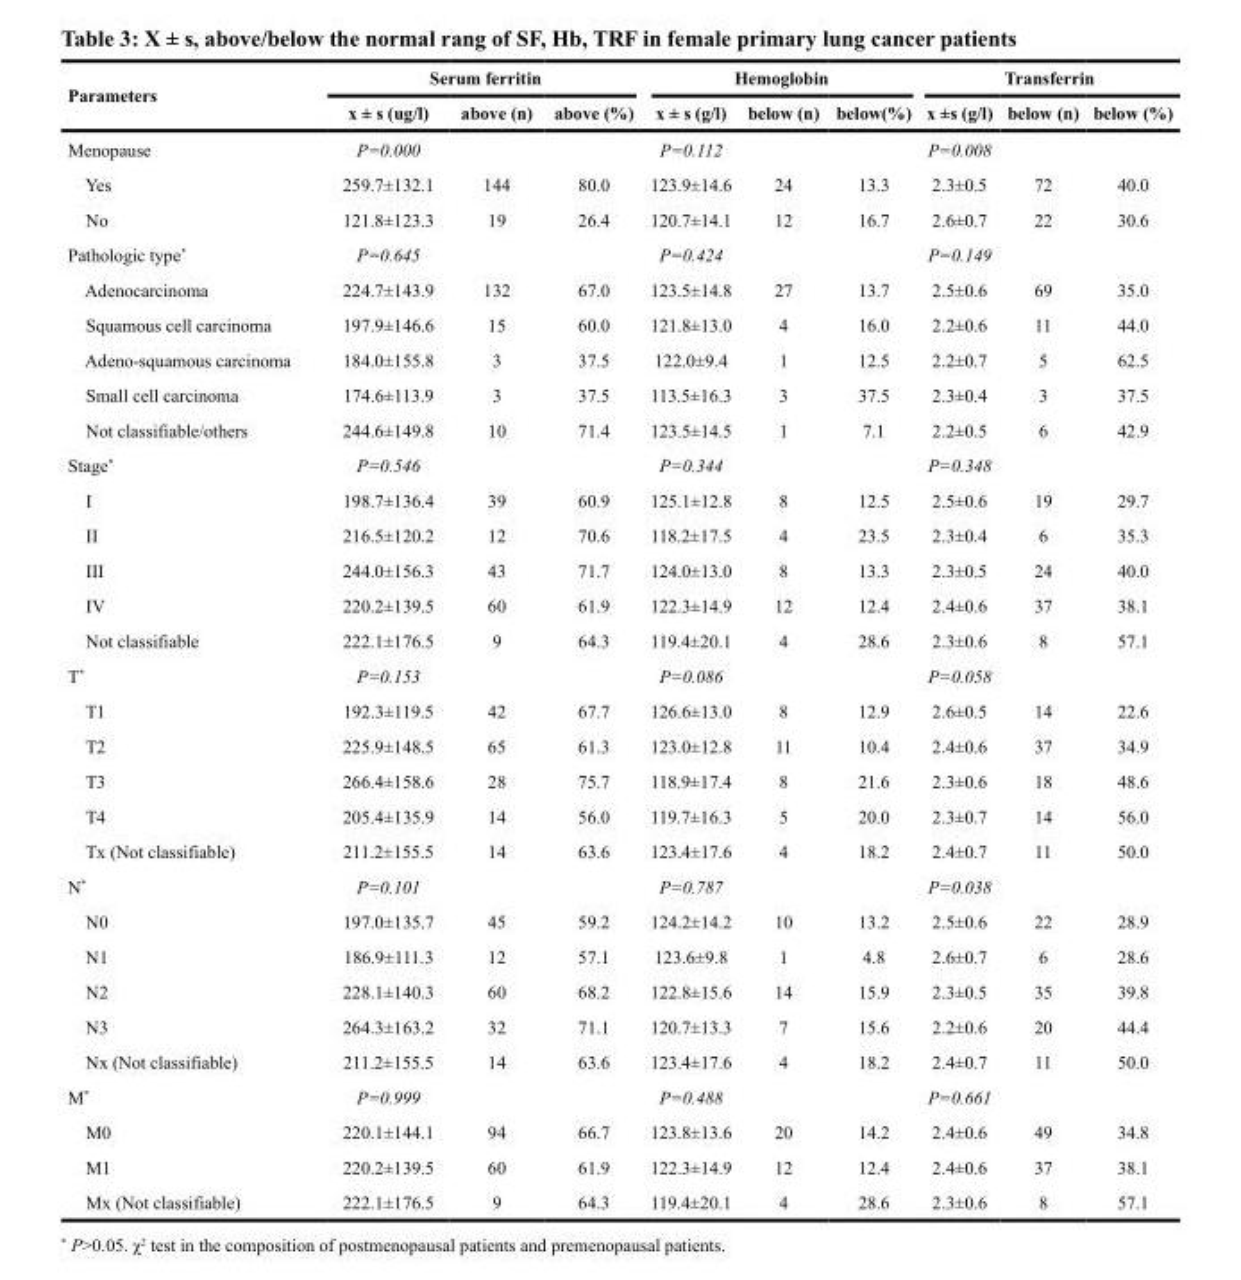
<table><thead><tr><td rowspan="2">Parameters</td><td colspan="3">Serum ferritin</td><td colspan="3">Hemoglobin</td><td colspan="3">Transferrin</td></tr><tr><td>x ± s (ug/l)</td><td>above (n)</td><td>above (%)</td><td>x ± s (g/l)</td><td>below (n)</td><td>below(%)</td><td>x ±s (g/l)</td><td>below (n)</td><td>below (%)</td></tr></thead><tbody><tr><td>Menopause</td><td>P=0.000</td><td></td><td></td><td>P=0.112</td><td></td><td></td><td>P=0.008</td><td></td><td></td></tr><tr><td>Yes</td><td>259.7±132.1</td><td>144</td><td>80.0</td><td>123.9±14.6</td><td>24</td><td>13.3</td><td>2.3±0.5</td><td>72</td><td>40.0</td></tr><tr><td>No</td><td>121.8±123.3</td><td>19</td><td>26.4</td><td>120.7±14.1</td><td>12</td><td>16.7</td><td>2.6±0.7</td><td>22</td><td>30.6</td></tr><tr><td>Pathologic type*</td><td>P=0.645</td><td></td><td></td><td>P=0.424</td><td></td><td></td><td>P=0.149</td><td></td><td></td></tr><tr><td>Adenocarcinoma</td><td>224.7±143.9</td><td>132</td><td>67.0</td><td>123.5±14.8</td><td>27</td><td>13.7</td><td>2.5±0.6</td><td>69</td><td>35.0</td></tr><tr><td>Squamous cell carcinoma</td><td>197.9±146.6</td><td>15</td><td>60.0</td><td>121.8±13.0</td><td>4</td><td>16.0</td><td>2.2±0.6</td><td>11</td><td>44.0</td></tr><tr><td>Adeno-squamous carcinoma</td><td>184.0±155.8</td><td>3</td><td>37.5</td><td>122.0±9.4</td><td>1</td><td>12.5</td><td>2.2±0.7</td><td>5</td><td>62.5</td></tr><tr><td>Small cell carcinoma</td><td>174.6±113.9</td><td>3</td><td>37.5</td><td>113.5±16.3</td><td>3</td><td>37.5</td><td>2.3±0.4</td><td>3</td><td>37.5</td></tr><tr><td>Not classifiable/others</td><td>244.6±149.8</td><td>10</td><td>71.4</td><td>123.5±14.5</td><td>1</td><td>7.1</td><td>2.2±0.5</td><td>6</td><td>42.9</td></tr><tr><td>Stage*</td><td>P=0.546</td><td></td><td></td><td>P=0.344</td><td></td><td></td><td>P=0.348</td><td></td><td></td></tr><tr><td>I</td><td>198.7±136.4</td><td>39</td><td>60.9</td><td>125.1±12.8</td><td>8</td><td>12.5</td><td>2.5±0.6</td><td>19</td><td>29.7</td></tr><tr><td>II</td><td>216.5±120.2</td><td>12</td><td>70.6</td><td>118.2±17.5</td><td>4</td><td>23.5</td><td>2.3±0.4</td><td>6</td><td>35.3</td></tr><tr><td>III</td><td>244.0±156.3</td><td>43</td><td>71.7</td><td>124.0±13.0</td><td>8</td><td>13.3</td><td>2.3±0.5</td><td>24</td><td>40.0</td></tr><tr><td>IV</td><td>220.2±139.5</td><td>60</td><td>61.9</td><td>122.3±14.9</td><td>12</td><td>12.4</td><td>2.4±0.6</td><td>37</td><td>38.1</td></tr><tr><td>Not classifiable</td><td>222.1±176.5</td><td>9</td><td>64.3</td><td>119.4±20.1</td><td>4</td><td>28.6</td><td>2.3±0.6</td><td>8</td><td>57.1</td></tr><tr><td>T*</td><td>P=0.153</td><td></td><td></td><td>P=0.086</td><td></td><td></td><td>P=0.058</td><td></td><td></td></tr><tr><td>T1</td><td>192.3±119.5</td><td>42</td><td>67.7</td><td>126.6±13.0</td><td>8</td><td>12.9</td><td>2.6±0.5</td><td>14</td><td>22.6</td></tr><tr><td>T2</td><td>225.9±148.5</td><td>65</td><td>61.3</td><td>123.0±12.8</td><td>11</td><td>10.4</td><td>2.4±0.6</td><td>37</td><td>34.9</td></tr><tr><td>T3</td><td>266.4±158.6</td><td>28</td><td>75.7</td><td>118.9±17.4</td><td>8</td><td>21.6</td><td>2.3±0.6</td><td>18</td><td>48.6</td></tr><tr><td>T4</td><td>205.4±135.9</td><td>14</td><td>56.0</td><td>119.7±16.3</td><td>5</td><td>20.0</td><td>2.3±0.7</td><td>14</td><td>56.0</td></tr><tr><td>Tx (Not classifiable)</td><td>211.2±155.5</td><td>14</td><td>63.6</td><td>123.4±17.6</td><td>4</td><td>18.2</td><td>2.4±0.7</td><td>11</td><td>50.0</td></tr><tr><td>N*</td><td>P=0.101</td><td></td><td></td><td>P=0.787</td><td></td><td></td><td>P=0.038</td><td></td><td></td></tr><tr><td>N0</td><td>197.0±135.7</td><td>45</td><td>59.2</td><td>124.2±14.2</td><td>10</td><td>13.2</td><td>2.5±0.6</td><td>22</td><td>28.9</td></tr><tr><td>N1</td><td>186.9±111.3</td><td>12</td><td>57.1</td><td>123.6±9.8</td><td>1</td><td>4.8</td><td>2.6±0.7</td><td>6</td><td>28.6</td></tr><tr><td>N2</td><td>228.1±140.3</td><td>60</td><td>68.2</td><td>122.8±15.6</td><td>14</td><td>15.9</td><td>2.3±0.5</td><td>35</td><td>39.8</td></tr><tr><td>N3</td><td>264.3±163.2</td><td>32</td><td>71.1</td><td>120.7±13.3</td><td>7</td><td>15.6</td><td>2.2±0.6</td><td>20</td><td>44.4</td></tr><tr><td>Nx (Not classifiable)</td><td>211.2±155.5</td><td>14</td><td>63.6</td><td>123.4±17.6</td><td>4</td><td>18.2</td><td>2.4±0.7</td><td>11</td><td>50.0</td></tr><tr><td>M*</td><td>P=0.999</td><td></td><td></td><td>P=0.488</td><td></td><td></td><td>P=0.661</td><td></td><td></td></tr><tr><td>M0</td><td>220.1±144.1</td><td>94</td><td>66.7</td><td>123.8±13.6</td><td>20</td><td>14.2</td><td>2.4±0.6</td><td>49</td><td>34.8</td></tr><tr><td>M1</td><td>220.2±139.5</td><td>60</td><td>61.9</td><td>122.3±14.9</td><td>12</td><td>12.4</td><td>2.4±0.6</td><td>37</td><td>38.1</td></tr><tr><td>Mx (Not classifiable)</td><td>222.1±176.5</td><td>9</td><td>64.3</td><td>119.4±20.1</td><td>4</td><td>28.6</td><td>2.3±0.6</td><td>8</td><td>57.1</td></tr></tbody></table>